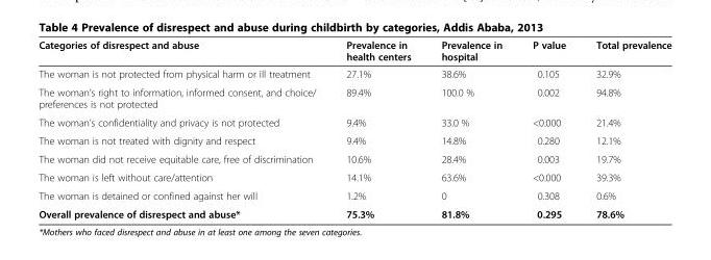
<table><thead><tr><td>Categories of disrespect and abuse</td><td>Prevalence in health centers</td><td>Prevalence in hospital</td><td>P value</td><td>Total prevalence</td></tr></thead><tbody><tr><td>The woman is not protected from physical harm or ill treatment</td><td>27.1%</td><td>38.6%</td><td>0.105</td><td>32.9%</td></tr><tr><td>The woman’s right to information, informed consent, and choice/ preferences is not protected</td><td>89.4%</td><td>100.0 %</td><td>0.002</td><td>94.8%</td></tr><tr><td>The woman’s confidentiality and privacy is not protected</td><td>9.4%</td><td>33.0 %</td><td>&lt;0.000</td><td>21.4%</td></tr><tr><td>The woman is not treated with dignity and respect</td><td>9.4%</td><td>14.8%</td><td>0.280</td><td>12.1%</td></tr><tr><td>The woman did not receive equitable care, free of discrimination</td><td>10.6%</td><td>28.4%</td><td>0.003</td><td>19.7%</td></tr><tr><td>The woman is left without care/attention</td><td>14.1%</td><td>63.6%</td><td>&lt;0.000</td><td>39.3%</td></tr><tr><td>The woman is detained or confined against her will</td><td>1.2%</td><td>0</td><td>0.308</td><td>0.6%</td></tr><tr><td>Overall prevalence of disrespect and abuse*</td><td>75.3%</td><td>81.8%</td><td>0.295</td><td>78.6%</td></tr></tbody></table>